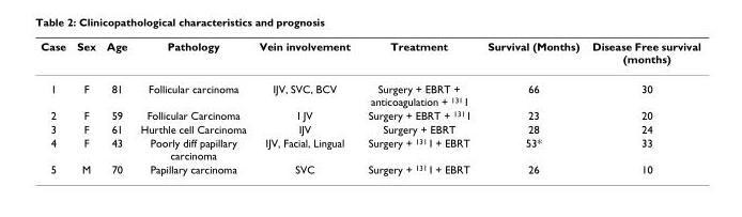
<table><thead><tr><td>Case</td><td>Sex</td><td>Age</td><td>Pathology</td><td>Vein involvement</td><td>Treatment</td><td>Survival (Months)</td><td>Disease Free survival (months)</td></tr></thead><tbody><tr><td>1</td><td>F</td><td>81</td><td>Follicular carcinoma</td><td>IJV, SVC, BCV</td><td>Surgery + EBRT + anticoagulation + <sup>131</sup> I</td><td>66</td><td>30</td></tr><tr><td>2</td><td>F</td><td>59</td><td>Follicular Carcinoma</td><td>I JV</td><td>Surgery + EBRT + <sup>131</sup> I</td><td>23</td><td>20</td></tr><tr><td>3</td><td>F</td><td>61</td><td>Hurthle cell Carcinoma</td><td>IJV</td><td>Surgery + EBRT</td><td>28</td><td>24</td></tr><tr><td>4</td><td>F</td><td>43</td><td>Poorly diff papillary carcinoma</td><td>IJV, Facial, Lingual</td><td>Surgery + <sup>131</sup> I + EBRT</td><td>53*</td><td>33</td></tr><tr><td>5</td><td>M</td><td>70</td><td>Papillary carcinoma</td><td>SVC</td><td>Surgery + <sup>131</sup> I + EBRT</td><td>26</td><td>10</td></tr></tbody></table>